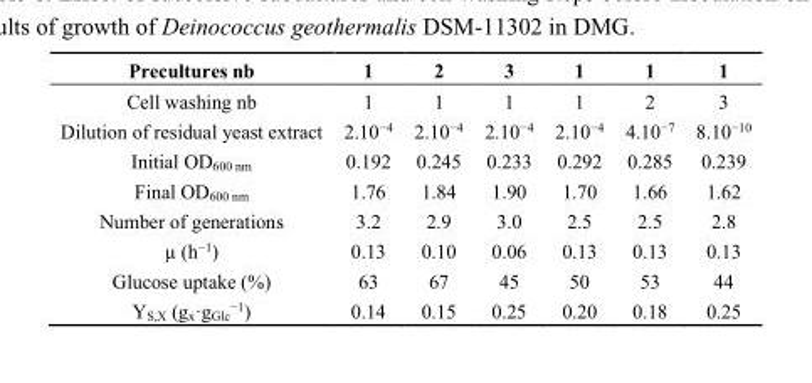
<table><thead><tr><td>Precultures nb</td><td>1</td><td>2</td><td>3</td><td>1</td><td>1</td><td>1</td></tr></thead><tbody><tr><td>Cell washing nb</td><td>1</td><td>1</td><td>1</td><td>1</td><td>2</td><td>3</td></tr><tr><td>Dilution of residual yeast extract</td><td>2.10<sup>−4</sup></td><td>2.10<sup>−4</sup></td><td>2.10<sup>−4</sup></td><td>2.10<sup>−4</sup></td><td>4.10<sup>−7</sup></td><td>8.10<sup>−10</sup></td></tr><tr><td>Initial OD<sub>600 nm</sub></td><td>0.192</td><td>0.245</td><td>0.233</td><td>0.292</td><td>0.285</td><td>0.239</td></tr><tr><td>Final OD<sub>600 nm</sub></td><td>1.76</td><td>1.84</td><td>1.90</td><td>1.70</td><td>1.66</td><td>1.62</td></tr><tr><td>Number of generations</td><td>3.2</td><td>2.9</td><td>3.0</td><td>2.5</td><td>2.5</td><td>2.8</td></tr><tr><td>µ (h<sup>−1</sup>)</td><td>0.13</td><td>0.10</td><td>0.06</td><td>0.13</td><td>0.13</td><td>0.13</td></tr><tr><td>Glucose uptake (%)</td><td>63</td><td>67</td><td>45</td><td>50</td><td>53</td><td>44</td></tr><tr><td>Y<sub>S,X</sub> (g<sub>x</sub>·g<sub>Glc</sub><sup>−1</sup>)</td><td>0.14</td><td>0.15</td><td>0.25</td><td>0.20</td><td>0.18</td><td>0.25</td></tr></tbody></table>